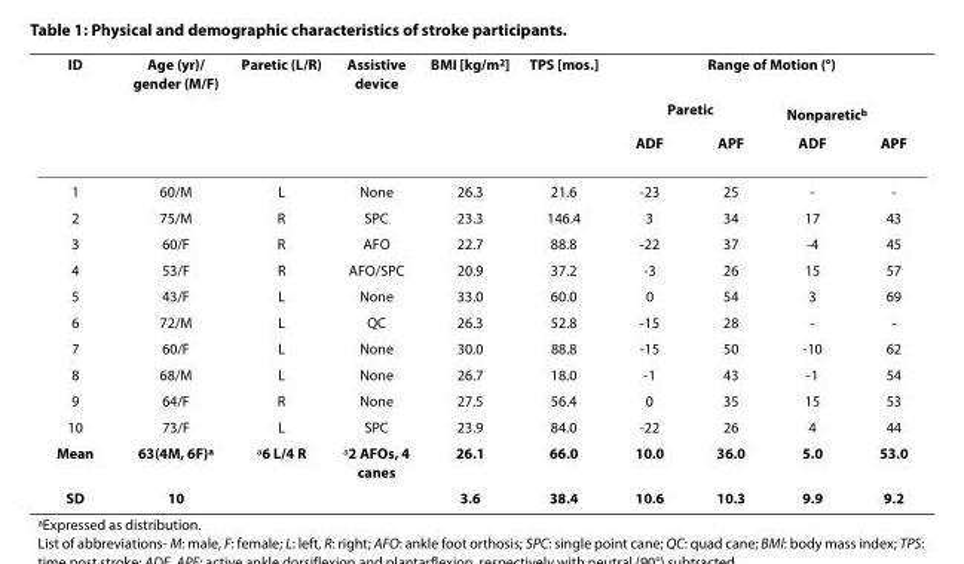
<table><thead><tr><td rowspan="3">ID</td><td rowspan="3">Age (yr)/ gender (M/F)</td><td rowspan="3">Paretic (L/R)</td><td rowspan="3">Assistive device</td><td rowspan="3">BMI [kg/m<sup>2</sup>]</td><td rowspan="3">TPS [mos.]</td><td colspan="4">Range of Motion (°)</td></tr><tr><td colspan="2">Paretic</td><td colspan="2">Nonparetic<sup>b</sup></td></tr><tr><td>ADF</td><td>APF</td><td>ADF</td><td>APF</td></tr></thead><tbody><tr><td>1</td><td>60/M</td><td>L</td><td>None</td><td>26.3</td><td>21.6</td><td>-23</td><td>25</td><td>-</td><td>-</td></tr><tr><td>2</td><td>75/M</td><td>R</td><td>SPC</td><td>23.3</td><td>146.4</td><td>3</td><td>34</td><td>17</td><td>43</td></tr><tr><td>3</td><td>60/F</td><td>R</td><td>AFO</td><td>22.7</td><td>88.8</td><td>-22</td><td>37</td><td>-4</td><td>45</td></tr><tr><td>4</td><td>53/F</td><td>R</td><td>AFO/SPC</td><td>20.9</td><td>37.2</td><td>-3</td><td>26</td><td>15</td><td>57</td></tr><tr><td>5</td><td>43/F</td><td>L</td><td>None</td><td>33.0</td><td>60.0</td><td>0</td><td>54</td><td>3</td><td>69</td></tr><tr><td>6</td><td>72/M</td><td>L</td><td>QC</td><td>26.3</td><td>52.8</td><td>-15</td><td>28</td><td>-</td><td>-</td></tr><tr><td>7</td><td>60/F</td><td>L</td><td>None</td><td>30.0</td><td>88.8</td><td>-15</td><td>50</td><td>-10</td><td>62</td></tr><tr><td>8</td><td>68/M</td><td>L</td><td>None</td><td>26.7</td><td>18.0</td><td>-1</td><td>43</td><td>-1</td><td>54</td></tr><tr><td>9</td><td>64/F</td><td>R</td><td>None</td><td>27.5</td><td>56.4</td><td>0</td><td>35</td><td>15</td><td>53</td></tr><tr><td>10</td><td>73/F</td><td>L</td><td>SPC</td><td>23.9</td><td>84.0</td><td>-22</td><td>26</td><td>4</td><td>44</td></tr><tr><td>Mean</td><td>63(4M, 6F)<sup>a</sup></td><td><sup>a</sup>6 L/4 R</td><td><sup>a</sup>2 AFOs, 4 canes</td><td>26.1</td><td>66.0</td><td>10.0</td><td>36.0</td><td>5.0</td><td>53.0</td></tr><tr><td>SD</td><td>10</td><td></td><td></td><td>3.6</td><td>38.4</td><td>10.6</td><td>10.3</td><td>9.9</td><td>9.2</td></tr></tbody></table>